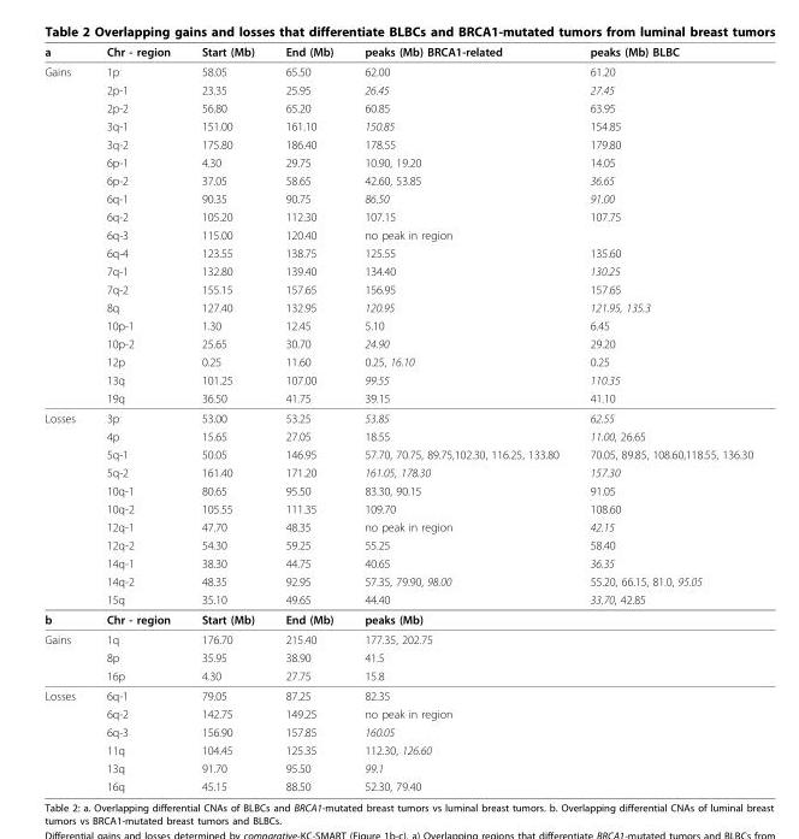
<table><thead><tr><td>a</td><td>Chr - region</td><td>Start (Mb)</td><td>End (Mb)</td><td>peaks (Mb) BRCA1-related</td><td>peaks (Mb) BLBC</td></tr></thead><tbody><tr><td rowspan="19">Gains</td><td>1p</td><td>58.05</td><td>65.50</td><td>62.00</td><td>61.20</td></tr><tr><td>2p-1</td><td>23.35</td><td>25.95</td><td>26.45</td><td>27.45</td></tr><tr><td>2p-2</td><td>56.80</td><td>65.20</td><td>60.85</td><td>63.95</td></tr><tr><td>3q-1</td><td>151.00</td><td>161.10</td><td>150.85</td><td>154.85</td></tr><tr><td>3q-2</td><td>175.80</td><td>186.40</td><td>178.55</td><td>179.80</td></tr><tr><td>6p-1</td><td>4.30</td><td>29.75</td><td>10.90, 19.20</td><td>14.05</td></tr><tr><td>6p-2</td><td>37.05</td><td>58.65</td><td>42.60, 53.85</td><td>36.65</td></tr><tr><td>6q-1</td><td>90.35</td><td>90.75</td><td>86.50</td><td>91.00</td></tr><tr><td>6q-2</td><td>105.20</td><td>112.30</td><td>107.15</td><td>107.75</td></tr><tr><td>6q-3</td><td>115.00</td><td>120.40</td><td>no peak in region</td><td></td></tr><tr><td>6q-4</td><td>123.55</td><td>138.75</td><td>125.55</td><td>135.60</td></tr><tr><td>7q-1</td><td>132.80</td><td>139.40</td><td>134.40</td><td>130.25</td></tr><tr><td>7q-2</td><td>155.15</td><td>157.65</td><td>156.95</td><td>157.65</td></tr><tr><td>8q</td><td>127.40</td><td>132.95</td><td>120.95</td><td>121.95, 135.3</td></tr><tr><td>10p-1</td><td>1.30</td><td>12.45</td><td>5.10</td><td>6.45</td></tr><tr><td>10p-2</td><td>25.65</td><td>30.70</td><td>24.90</td><td>29.20</td></tr><tr><td>12p</td><td>0.25</td><td>11.60</td><td>0.25, 16.10</td><td>0.25</td></tr><tr><td>13q</td><td>101.25</td><td>107.00</td><td>99.55</td><td>110.35</td></tr><tr><td>19q</td><td>36.50</td><td>41.75</td><td>39.15</td><td>41.10</td></tr><tr><td rowspan="11">Losses</td><td>3p</td><td>53.00</td><td>53.25</td><td>53.85</td><td>62.55</td></tr><tr><td>4p</td><td>15.65</td><td>27.05</td><td>18.55</td><td>11.00, 26.65</td></tr><tr><td>5q-1</td><td>50.05</td><td>146.95</td><td>57.70, 70.75, 89.75,102.30, 116.25, 133.80</td><td>70.05, 89.85, 108.60,118.55, 136.30</td></tr><tr><td>5q-2</td><td>161.40</td><td>171.20</td><td>161.05, 178.30</td><td>157.30</td></tr><tr><td>10q-1</td><td>80.65</td><td>95.50</td><td>83.30, 90.15</td><td>91.05</td></tr><tr><td>10q-2</td><td>105.55</td><td>111.35</td><td>109.70</td><td>108.60</td></tr><tr><td>12q-1</td><td>47.70</td><td>48.35</td><td>no peak in region</td><td>42.15</td></tr><tr><td>12q-2</td><td>54.30</td><td>59.25</td><td>55.25</td><td>58.40</td></tr><tr><td>14q-1</td><td>38.30</td><td>44.75</td><td>40.65</td><td>36.35</td></tr><tr><td>14q-2</td><td>48.35</td><td>92.95</td><td>57.35, 79.90, 98.00</td><td>55.20, 66.15, 81.0, 95.05</td></tr><tr><td>15q</td><td>35.10</td><td>49.65</td><td>44.40</td><td>33.70, 42.85</td></tr><tr><td>b</td><td>Chr - region</td><td>Start (Mb)</td><td>End (Mb)</td><td>peaks (Mb)</td><td></td></tr><tr><td rowspan="3">Gains</td><td>1q</td><td>176.70</td><td>215.40</td><td>177.35, 202.75</td><td></td></tr><tr><td>8p</td><td>35.95</td><td>38.90</td><td>41.5</td><td></td></tr><tr><td>16p</td><td>4.30</td><td>27.75</td><td>15.8</td><td></td></tr><tr><td rowspan="6">Losses</td><td>6q-1</td><td>79.05</td><td>87.25</td><td>82.35</td><td></td></tr><tr><td>6q-2</td><td>142.75</td><td>149.25</td><td>no peak in region</td><td></td></tr><tr><td>6q-3</td><td>156.90</td><td>157.85</td><td>160.05</td><td></td></tr><tr><td>11q</td><td>104.45</td><td>125.35</td><td>112.30, 126.60</td><td></td></tr><tr><td>13q</td><td>91.70</td><td>95.50</td><td>99.1</td><td></td></tr><tr><td>16q</td><td>45.15</td><td>88.50</td><td>52.30, 79.40</td><td></td></tr></tbody></table>